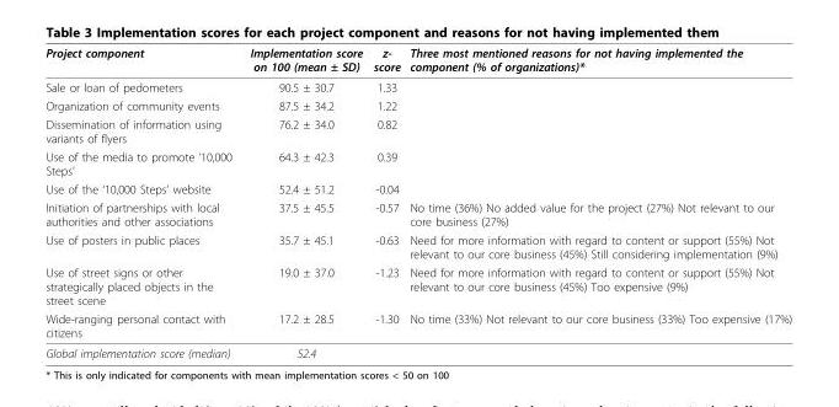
<table><thead><tr><td>Project component</td><td>Implementation score on 100 (mean ± SD)</td><td>z- score</td><td>Three most mentioned reasons for not having implemented the component (% of organizations)*</td></tr></thead><tbody><tr><td>Sale or loan of pedometers</td><td>90.5 ± 30.7</td><td>1.33</td><td></td></tr><tr><td>Organization of community events</td><td>87.5 ± 34.2</td><td>1.22</td><td></td></tr><tr><td>Dissemination of information using variants of flyers</td><td>76.2 ± 34.0</td><td>0.82</td><td></td></tr><tr><td>Use of the media to promote ‘10,000 Steps’</td><td>64.3 ± 42.3</td><td>0.39</td><td></td></tr><tr><td>Use of the ‘10,000 Steps’ website</td><td>52.4 ± 51.2</td><td>-0.04</td><td></td></tr><tr><td>Initiation of partnerships with local authorities and other associations</td><td>37.5 ± 45.5</td><td>-0.57</td><td>No time (36%) No added value for the project (27%) Not relevant to our core business (27%)</td></tr><tr><td>Use of posters in public places</td><td>35.7 ± 45.1</td><td>-0.63</td><td>Need for more information with regard to content or support (55%) Not relevant to our core business (45%) Still considering implementation (9%)</td></tr><tr><td>Use of street signs or other strategically placed objects in the street scene</td><td>19.0 ± 37.0</td><td>-1.23</td><td>Need for more information with regard to content or support (55%) Not relevant to our core business (45%) Too expensive (9%)</td></tr><tr><td>Wide-ranging personal contact with citizens</td><td>17.2 ± 28.5</td><td>-1.30</td><td>No time (33%) Not relevant to our core business (33%) Too expensive (17%)</td></tr><tr><td>Global implementation score (median)</td><td>52.4</td><td></td><td></td></tr></tbody></table>